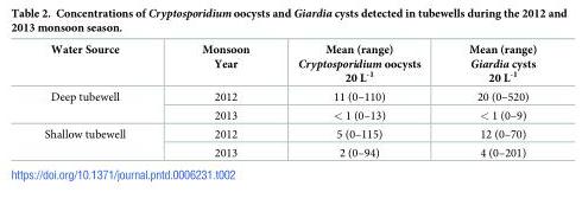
<table><thead><tr><td>Water Source</td><td>Monsoon Year</td><td>Mean (range) Cryptosporidium oocysts 20 L<sup>-1</sup></td><td>Mean (range) Giardia cysts 20 L<sup>-1</sup></td></tr></thead><tbody><tr><td rowspan="2">Deep tubewell</td><td>2012</td><td>11 (0–110)</td><td>20 (0–520)</td></tr><tr><td>2013</td><td>&lt; 1 (0–13)</td><td>&lt; 1 (0–9)</td></tr><tr><td rowspan="2">Shallow tubewell</td><td>2012</td><td>5 (0–115)</td><td>12 (0–70)</td></tr><tr><td>2013</td><td>2 (0–94)</td><td>4 (0–201)</td></tr></tbody></table>